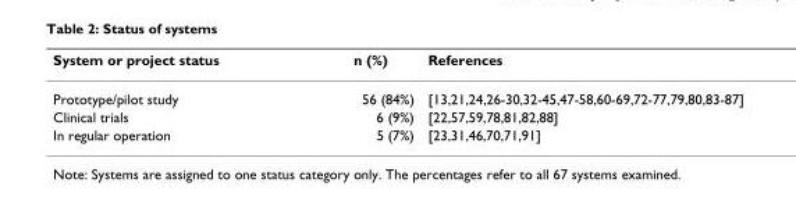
<table><thead><tr><td>System or project status</td><td>n (%)</td><td>References</td></tr></thead><tbody><tr><td>Prototype/pilot study</td><td>56 (84%)</td><td>[13,21,24,26-30,32-45,47-58,60-69,72-77,79,80,83-87]</td></tr><tr><td>Clinical trials</td><td>6 (9%)</td><td>[22,57,59,78,81,82,88]</td></tr><tr><td>In regular operation</td><td>5 (7%)</td><td>[23,31,46,70,71,91]</td></tr></tbody></table>